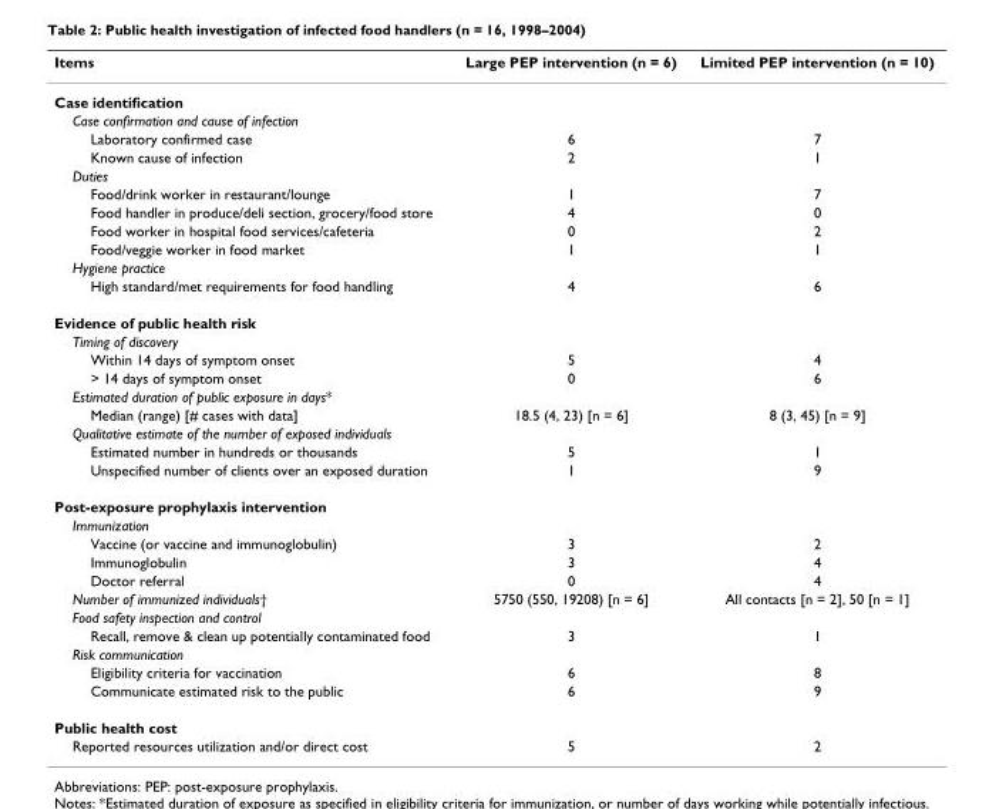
<table><thead><tr><td>Items</td><td>Large PEP intervention (n = 6)</td><td>Limited PEP intervention (n = 10)</td></tr></thead><tbody><tr><td colspan="3">Case identification</td></tr><tr><td colspan="3">Case confirmation and cause of infection</td></tr><tr><td>Laboratory confirmed case</td><td>6</td><td>7</td></tr><tr><td>Known cause of infection</td><td>2</td><td>1</td></tr><tr><td colspan="3">Duties</td></tr><tr><td>Food/drink worker in restaurant/lounge</td><td>1</td><td>7</td></tr><tr><td>Food handler in produce/deli section, grocery/food store</td><td>4</td><td>0</td></tr><tr><td>Food worker in hospital food services/cafeteria</td><td>0</td><td>2</td></tr><tr><td>Food/veggie worker in food market</td><td>1</td><td>1</td></tr><tr><td colspan="3">Hygiene practice</td></tr><tr><td>High standard/met requirements for food handling</td><td>4</td><td>6</td></tr><tr><td colspan="3">Evidence of public health risk</td></tr><tr><td colspan="3">Timing of discovery</td></tr><tr><td>Within 14 days of symptom onset</td><td>5</td><td>4</td></tr><tr><td>&gt; 14 days of symptom onset</td><td>0</td><td>6</td></tr><tr><td colspan="3">Estimated duration of public exposure in days*</td></tr><tr><td>Median (range) [# cases with data]</td><td>18.5 (4, 23) [n = 6]</td><td>8 (3, 45) [n = 9]</td></tr><tr><td colspan="3">Qualitative estimate of the number of exposed individuals</td></tr><tr><td>Estimated number in hundreds or thousands</td><td>5</td><td>1</td></tr><tr><td>Unspecified number of clients over an exposed duration</td><td>1</td><td>9</td></tr><tr><td colspan="3">Post-exposure prophylaxis intervention</td></tr><tr><td colspan="3">Immunization</td></tr><tr><td>Vaccine (or vaccine and immunoglobulin)</td><td>3</td><td>2</td></tr><tr><td>Immunoglobulin</td><td>3</td><td>4</td></tr><tr><td>Doctor referral</td><td>0</td><td>4</td></tr><tr><td>Number of immunized individuals†</td><td>5750 (550, 19208) [n = 6]</td><td>All contacts [n = 2], 50 [n = 1]</td></tr><tr><td colspan="3">Food safety inspection and control</td></tr><tr><td>Recall, remove &amp; clean up potentially contaminated food</td><td>3</td><td>1</td></tr><tr><td colspan="3">Risk communication</td></tr><tr><td>Eligibility criteria for vaccination</td><td>6</td><td>8</td></tr><tr><td>Communicate estimated risk to the public</td><td>6</td><td>9</td></tr><tr><td colspan="3">Public health cost</td></tr><tr><td>Reported resources utilization and/or direct cost</td><td>5</td><td>2</td></tr></tbody></table>